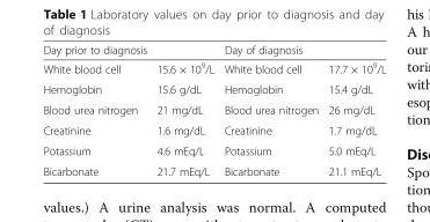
<table><thead><tr><td>Day prior to diagnosis</td><td></td><td>Day of diagnosis</td><td></td></tr></thead><tbody><tr><td>White blood cell</td><td>15.6 × 10<sup>9</sup>/L</td><td>White blood cell</td><td>17.7 × 10<sup>9</sup>/L</td></tr><tr><td>Hemoglobin</td><td>15.6 g/dL</td><td>Hemoglobin</td><td>15.4 g/dL</td></tr><tr><td>Blood urea nitrogen</td><td>21 mg/dL</td><td>Blood urea nitrogen</td><td>26 mg/dL</td></tr><tr><td>Creatinine</td><td>1.6 mg/dL</td><td>Creatinine</td><td>1.7 mg/dL</td></tr><tr><td>Potassium</td><td>4.6 mEq/L</td><td>Potassium</td><td>5.0 mEq/L</td></tr><tr><td>Bicarbonate</td><td>21.7 mEq/L</td><td>Bicarbonate</td><td>21.1 mEq/L</td></tr></tbody></table>